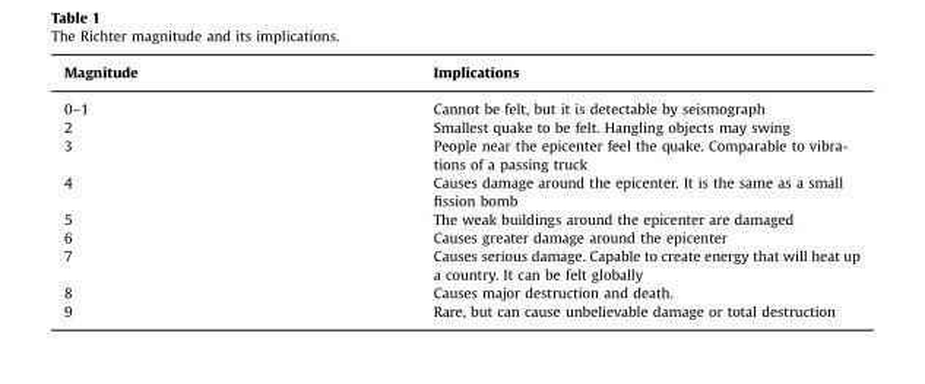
<table><thead><tr><td>Magnitude</td><td>Implications</td></tr></thead><tbody><tr><td>0–1</td><td>Cannot be felt, but it is detectable by seismograph</td></tr><tr><td>2</td><td>Smallest quake to be felt. Hangling objects may swing</td></tr><tr><td>3</td><td>People near the epicenter feel the quake. Comparable to vibra- tions of a passing truck</td></tr><tr><td>4</td><td>Causes damage around the epicenter. It is the same as a small fission bomb</td></tr><tr><td>5</td><td>The weak buildings around the epicenter are damaged</td></tr><tr><td>6</td><td>Causes greater damage around the epicenter</td></tr><tr><td>7</td><td>Causes serious damage. Capable to create energy that will heat up a country. It can be felt globally</td></tr><tr><td>8</td><td>Causes major destruction and death.</td></tr><tr><td>9</td><td>Rare, but can cause unbelievable damage or total destruction</td></tr></tbody></table>